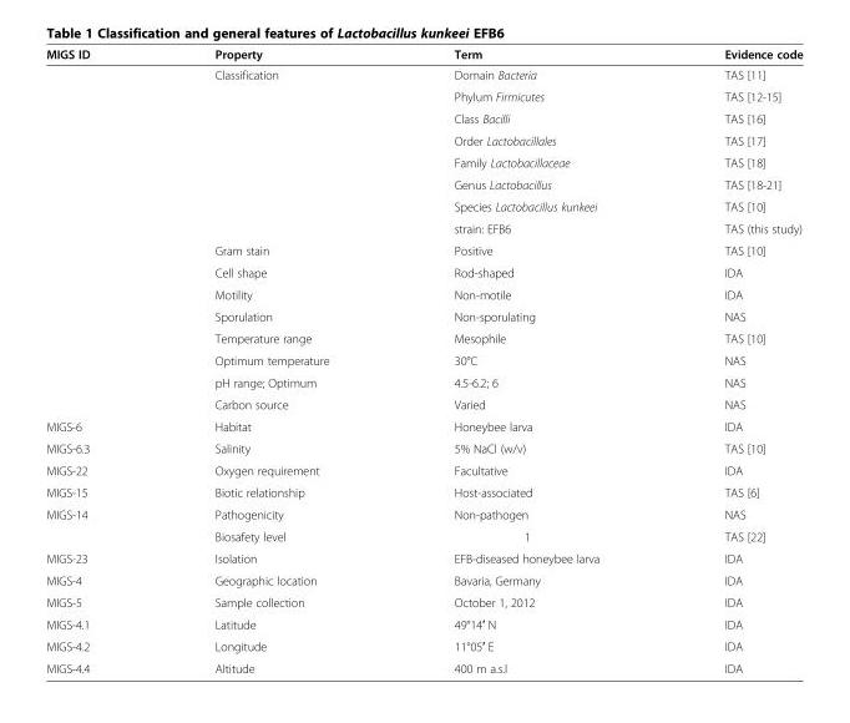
<table><thead><tr><td>MIGS ID</td><td>Property</td><td>Term</td><td>Evidence code</td></tr></thead><tbody><tr><td></td><td>Classification</td><td>Domain Bacteria</td><td>TAS [11]</td></tr><tr><td></td><td></td><td>Phylum Firmicutes</td><td>TAS [12-15]</td></tr><tr><td></td><td></td><td>Class Bacilli</td><td>TAS [16]</td></tr><tr><td></td><td></td><td>Order Lactobacillales</td><td>TAS [17]</td></tr><tr><td></td><td></td><td>Family Lactobacillaceae</td><td>TAS [18]</td></tr><tr><td></td><td></td><td>Genus Lactobacillus</td><td>TAS [18-21]</td></tr><tr><td></td><td></td><td>Species Lactobacillus kunkeei</td><td>TAS [10]</td></tr><tr><td></td><td></td><td>strain: EFB6</td><td>TAS (this study)</td></tr><tr><td></td><td>Gram stain</td><td>Positive</td><td>TAS [10]</td></tr><tr><td></td><td>Cell shape</td><td>Rod-shaped</td><td>IDA</td></tr><tr><td></td><td>Motility</td><td>Non-motile</td><td>IDA</td></tr><tr><td></td><td>Sporulation</td><td>Non-sporulating</td><td>NAS</td></tr><tr><td></td><td>Temperature range</td><td>Mesophile</td><td>TAS [10]</td></tr><tr><td></td><td>Optimum temperature</td><td>30°C</td><td>NAS</td></tr><tr><td></td><td>pH range; Optimum</td><td>4.5-6.2; 6</td><td>NAS</td></tr><tr><td></td><td>Carbon source</td><td>Varied</td><td>NAS</td></tr><tr><td>MIGS-6</td><td>Habitat</td><td>Honeybee larva</td><td>IDA</td></tr><tr><td>MIGS-6.3</td><td>Salinity</td><td>5% NaCl (w/v)</td><td>TAS [10]</td></tr><tr><td>MIGS-22</td><td>Oxygen requirement</td><td>Facultative</td><td>IDA</td></tr><tr><td>MIGS-15</td><td>Biotic relationship</td><td>Host-associated</td><td>TAS [6]</td></tr><tr><td rowspan="2">MIGS-14</td><td>Pathogenicity</td><td>Non-pathogen</td><td>NAS</td></tr><tr><td>Biosafety level</td><td>1</td><td>TAS [22]</td></tr><tr><td>MIGS-23</td><td>Isolation</td><td>EFB-diseased honeybee larva</td><td>IDA</td></tr><tr><td>MIGS-4</td><td>Geographic location</td><td>Bavaria, Germany</td><td>IDA</td></tr><tr><td>MIGS-5</td><td>Sample collection</td><td>October 1, 2012</td><td>IDA</td></tr><tr><td>MIGS-4.1</td><td>Latitude</td><td>49°14′ N</td><td>IDA</td></tr><tr><td>MIGS-4.2</td><td>Longitude</td><td>11°05′ E</td><td>IDA</td></tr><tr><td>MIGS-4.4</td><td>Altitude</td><td>400 m a.s.l</td><td>IDA</td></tr></tbody></table>